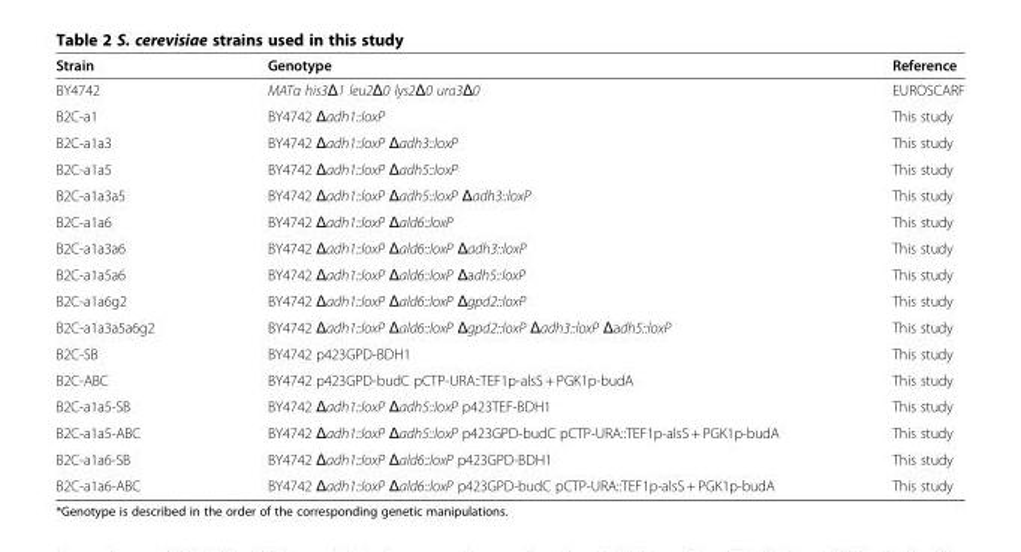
<table><thead><tr><td>Strain</td><td>Genotype</td><td>Reference</td></tr></thead><tbody><tr><td>BY4742</td><td>MATα his3Δ1 leu2Δ0 lys2Δ0 ura3Δ0</td><td>EUROSCARF</td></tr><tr><td>B2C-a1</td><td>BY4742 Δadh1::loxP</td><td>This study</td></tr><tr><td>B2C-a1a3</td><td>BY4742 Δadh1::loxP Δadh3::loxP</td><td>This study</td></tr><tr><td>B2C-a1a5</td><td>BY4742 Δadh1::loxP Δadh5::loxP</td><td>This study</td></tr><tr><td>B2C-a1a3a5</td><td>BY4742 Δadh1::loxP Δadh5::loxP Δadh3::loxP</td><td>This study</td></tr><tr><td>B2C-a1a6</td><td>BY4742 Δadh1::loxP Δald6::loxP</td><td>This study</td></tr><tr><td>B2C-a1a3a6</td><td>BY4742 Δadh1::loxP Δald6::loxP Δadh3::loxP</td><td>This study</td></tr><tr><td>B2C-a1a5a6</td><td>BY4742 Δadh1::loxP Δald6::loxP Δadh5::loxP</td><td>This study</td></tr><tr><td>B2C-a1a6g2</td><td>BY4742 Δadh1::loxP Δald6::loxP Δgpd2::loxP</td><td>This study</td></tr><tr><td>B2C-a1a3a5a6g2</td><td>BY4742 Δadh1::loxP Δald6::loxP Δgpd2::loxP Δadh3::loxP Δadh5::loxP</td><td>This study</td></tr><tr><td>B2C-SB</td><td>BY4742 p423GPD-BDH1</td><td>This study</td></tr><tr><td>B2C-ABC</td><td>BY4742 p423GPD-budC pCTP-URA::TEF1p-alsS + PGK1p-budA</td><td>This study</td></tr><tr><td>B2C-a1a5-SB</td><td>BY4742 Δadh1::loxP Δadh5::loxP p423TEF-BDH1</td><td>This study</td></tr><tr><td>B2C-a1a5-ABC</td><td>BY4742 Δadh1::loxP Δadh5::loxP p423GPD-budC pCTP-URA::TEF1p-alsS + PGK1p-budA</td><td>This study</td></tr><tr><td>B2C-a1a6-SB</td><td>BY4742 Δadh1::loxP Δald6::loxP p423GPD-BDH1</td><td>This study</td></tr><tr><td>B2C-a1a6-ABC</td><td>BY4742 Δadh1::loxP Δald6::loxP p423GPD-budC pCTP-URA::TEF1p-alsS + PGK1p-budA</td><td>This study</td></tr></tbody></table>